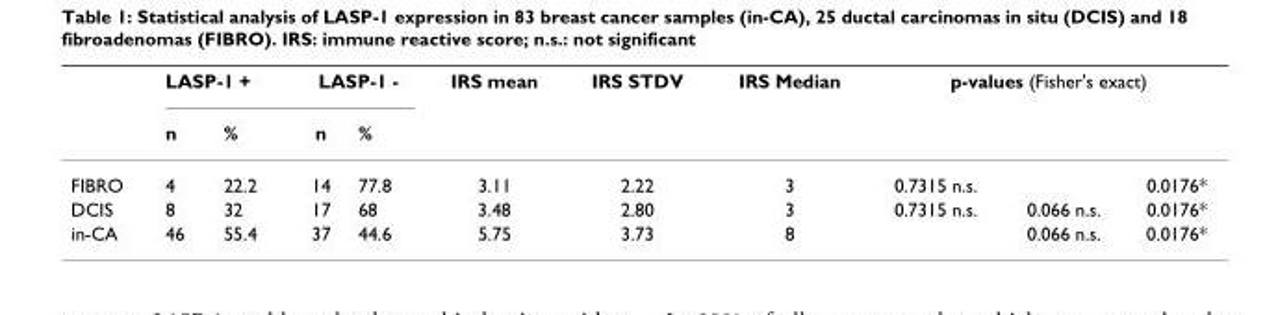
<table><thead><tr><td rowspan="2"></td><td colspan="2">LASP-1 +</td><td colspan="2">LASP-1 -</td><td rowspan="2">IRS mean</td><td rowspan="2">IRS STDV</td><td rowspan="2">IRS Median</td><td colspan="3">p-values (Fisher&#x27;s exact)</td></tr><tr><td>n</td><td>%</td><td>n</td><td>%</td><td></td><td></td><td></td></tr></thead><tbody><tr><td>FIBRO</td><td>4</td><td>22.2</td><td>14</td><td>77.8</td><td>3.11</td><td>2.22</td><td>3</td><td>0.7315 n.s.</td><td></td><td>0.0176*</td></tr><tr><td>DCIS</td><td>8</td><td>32</td><td>17</td><td>68</td><td>3.48</td><td>2.80</td><td>3</td><td>0.7315 n.s.</td><td>0.066 n.s.</td><td>0.0176*</td></tr><tr><td>in-CA</td><td>46</td><td>55.4</td><td>37</td><td>44.6</td><td>5.75</td><td>3.73</td><td>8</td><td></td><td>0.066 n.s.</td><td>0.0176*</td></tr></tbody></table>